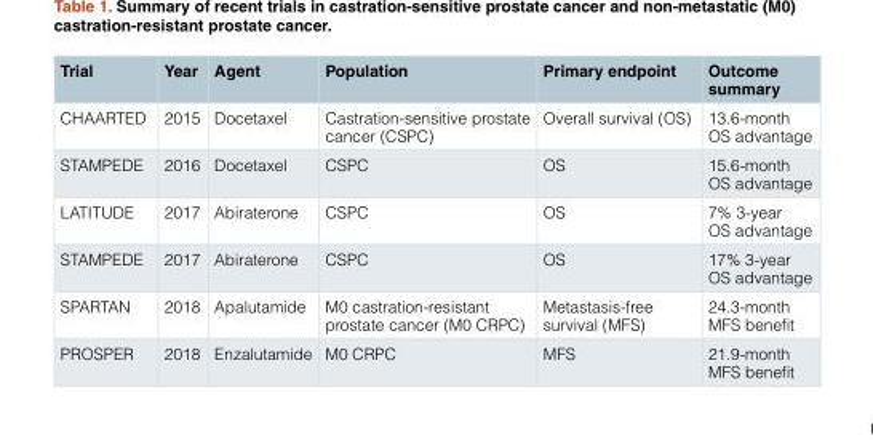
<table><thead><tr><td>Trial</td><td>Year</td><td>Agent</td><td>Population</td><td>Primary endpoint</td><td>Outcome summary</td></tr></thead><tbody><tr><td>CHAARTED</td><td>2015</td><td>Docetaxel</td><td>Castration-sensitive prostate cancer (CSPC)</td><td>Overall survival (OS)</td><td>13.6-month OS advantage</td></tr><tr><td>STAMPEDE</td><td>2016</td><td>Docetaxel</td><td>CSPC</td><td>OS</td><td>15.6-month OS advantage</td></tr><tr><td>LATITUDE</td><td>2017</td><td>Abiraterone</td><td>CSPC</td><td>OS</td><td>7% 3-year OS advantage</td></tr><tr><td>STAMPEDE</td><td>2017</td><td>Abiraterone</td><td>CSPC</td><td>OS</td><td>17% 3-year OS advantage</td></tr><tr><td>SPARTAN</td><td>2018</td><td>Apalutamide</td><td>M0 castration-resistant prostate cancer (M0 CRPC)</td><td>Metastasis-free survival (MFS)</td><td>24.3-month MFS benefit</td></tr><tr><td>PROSPER</td><td>2018</td><td>Enzalutamide</td><td>M0 CRPC</td><td>MFS</td><td>21.9-month MFS benefit</td></tr></tbody></table>